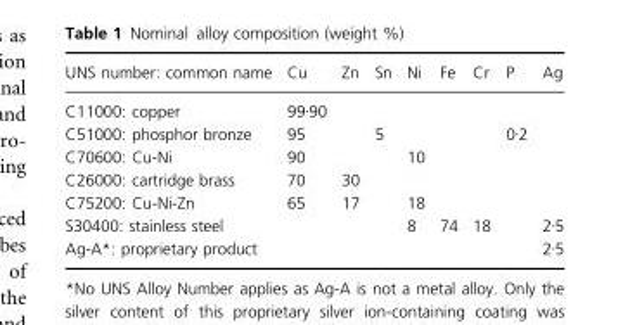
<table><thead><tr><td>UNS number: common name</td><td>Cu</td><td>Zn</td><td>Sn</td><td>Ni</td><td>Fe</td><td>Cr</td><td>P</td><td>Ag</td></tr></thead><tbody><tr><td>C11000: copper</td><td>99Æ90</td><td></td><td></td><td></td><td></td><td></td><td></td><td></td></tr><tr><td>C51000: phosphor bronze</td><td>95</td><td></td><td>5</td><td></td><td></td><td></td><td>0Æ2</td><td></td></tr><tr><td>C70600: Cu-Ni</td><td>90</td><td></td><td></td><td>10</td><td></td><td></td><td></td><td></td></tr><tr><td>C26000: cartridge brass</td><td>70</td><td>30</td><td></td><td></td><td></td><td></td><td></td><td></td></tr><tr><td>C75200: Cu-Ni-Zn</td><td>65</td><td>17</td><td></td><td>18</td><td></td><td></td><td></td><td></td></tr><tr><td>S30400: stainless steel</td><td></td><td></td><td></td><td>8</td><td>74</td><td>18</td><td></td><td>2Æ5</td></tr><tr><td>Ag-A*: proprietary product</td><td></td><td></td><td></td><td></td><td></td><td></td><td></td><td>2Æ5</td></tr></tbody></table>